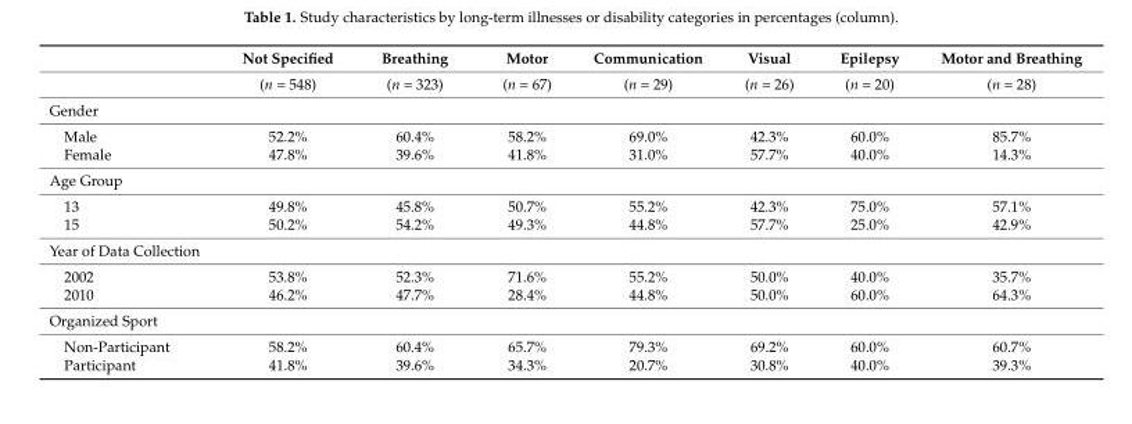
<table><thead><tr><td></td><td>Not Specified</td><td>Breathing</td><td>Motor</td><td>Communication</td><td>Visual</td><td>Epilepsy</td><td>Motor and Breathing</td></tr></thead><tbody><tr><td></td><td>(n = 548)</td><td>(n = 323)</td><td>(n = 67)</td><td>(n = 29)</td><td>(n = 26)</td><td>(n = 20)</td><td>(n = 28)</td></tr><tr><td colspan="8">Gender</td></tr><tr><td>Male</td><td>52.2%</td><td>60.4%</td><td>58.2%</td><td>69.0%</td><td>42.3%</td><td>60.0%</td><td>85.7%</td></tr><tr><td>Female</td><td>47.8%</td><td>39.6%</td><td>41.8%</td><td>31.0%</td><td>57.7%</td><td>40.0%</td><td>14.3%</td></tr><tr><td colspan="8">Age Group</td></tr><tr><td>13</td><td>49.8%</td><td>45.8%</td><td>50.7%</td><td>55.2%</td><td>42.3%</td><td>75.0%</td><td>57.1%</td></tr><tr><td>15</td><td>50.2%</td><td>54.2%</td><td>49.3%</td><td>44.8%</td><td>57.7%</td><td>25.0%</td><td>42.9%</td></tr><tr><td colspan="8">Year of Data Collection</td></tr><tr><td>2002</td><td>53.8%</td><td>52.3%</td><td>71.6%</td><td>55.2%</td><td>50.0%</td><td>40.0%</td><td>35.7%</td></tr><tr><td>2010</td><td>46.2%</td><td>47.7%</td><td>28.4%</td><td>44.8%</td><td>50.0%</td><td>60.0%</td><td>64.3%</td></tr><tr><td colspan="8">Organized Sport</td></tr><tr><td>Non-Participant</td><td>58.2%</td><td>60.4%</td><td>65.7%</td><td>79.3%</td><td>69.2%</td><td>60.0%</td><td>60.7%</td></tr><tr><td>Participant</td><td>41.8%</td><td>39.6%</td><td>34.3%</td><td>20.7%</td><td>30.8%</td><td>40.0%</td><td>39.3%</td></tr></tbody></table>